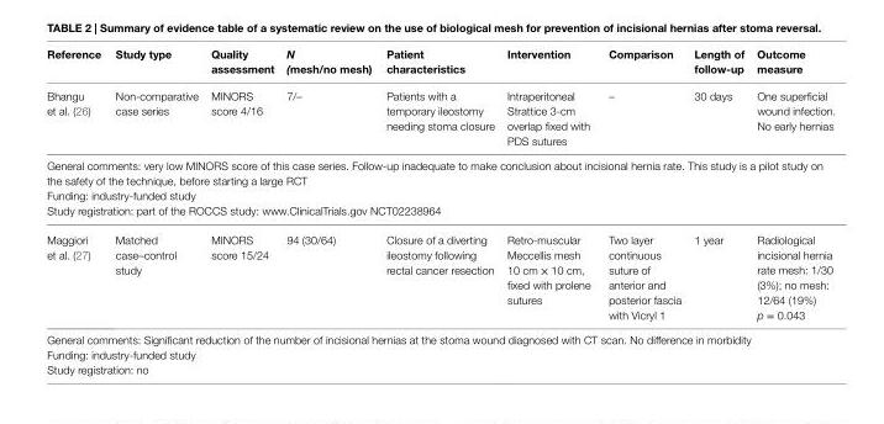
<table><thead><tr><td>Reference</td><td>Study type</td><td>Quality assessment</td><td>N (mesh/no mesh)</td><td>Patient characteristics</td><td>intervention</td><td>Comparison</td><td>Length of follow-up</td><td>Outcome measure</td></tr></thead><tbody><tr><td>Bhangu et al. (26)</td><td>Non-comparative case series</td><td>MINORS score 4/16</td><td>7/–</td><td>Patients with a temporary ileostomy needing stoma closure</td><td>Intraperitoneal Strattice 3-cm overlap fixed with PDS sutures</td><td>–</td><td>30 days</td><td>One superficial wound infection. No early hernias</td></tr><tr><td colspan="9">General comments: very low MINORS score of this case series. Follow-up inadequate to make conclusion about incisional hernia rate. This study is a pilot study on the safety of the technique, before starting a large RCT</td></tr><tr><td colspan="9">Funding: industry-funded study</td></tr><tr><td colspan="9">Study registration: part of the ROCCS study: www.ClinicalTrials.gov NCT02238964</td></tr><tr><td>Maggiori et al. (27)</td><td>Matched case–control study</td><td>MINORS score 15/24</td><td>94 (30/64)</td><td>Closure of a diverting ileostomy following rectal cancer resection</td><td>Retro-muscular Meccellis mesh 10 cm × 10 cm, fixed with prolene sutures</td><td>Two layer continuous suture of anterior and posterior fascia with Vicryl 1</td><td>1 year</td><td>Radiological incisional hernia rate mesh: 1/30 (3%); no mesh: 12/64 (19%) p = 0.043</td></tr><tr><td colspan="9">General comments: Significant reduction of the number of incisional hernias at the stoma wound diagnosed with CT scan. No difference in morbidity</td></tr><tr><td colspan="9">Funding: industry-funded study</td></tr><tr><td colspan="9">Study registration: no</td></tr></tbody></table>